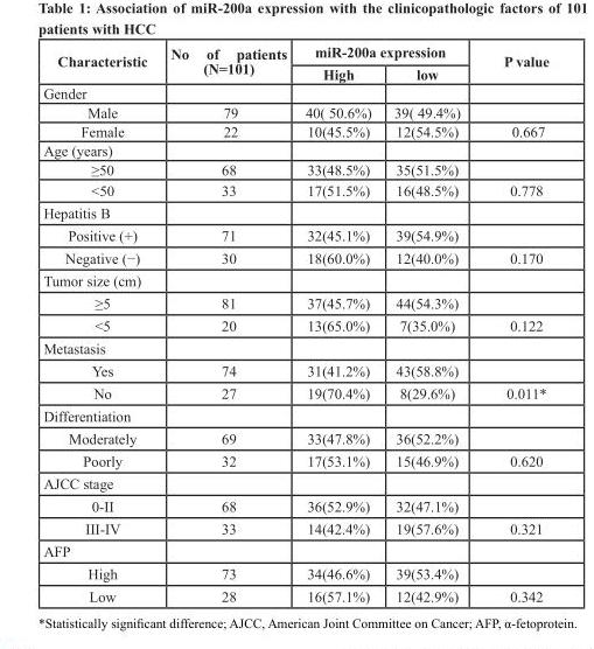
<table><thead><tr><td rowspan="2">Characteristic</td><td rowspan="2">No of patients (N=101)</td><td colspan="2">miR-200a expression</td><td rowspan="2">P value</td></tr><tr><td>High</td><td>low</td></tr></thead><tbody><tr><td colspan="5">Gender</td></tr><tr><td>Male</td><td>79</td><td>40( 50.6%)</td><td>39( 49.4%)</td><td></td></tr><tr><td>Female</td><td>22</td><td>10(45.5%)</td><td>12(54.5%)</td><td>0.667</td></tr><tr><td colspan="5">Age (years)</td></tr><tr><td>≥50</td><td>68</td><td>33(48.5%)</td><td>35(51.5%)</td><td></td></tr><tr><td>&lt;50</td><td>33</td><td>17(51.5%)</td><td>16(48.5%)</td><td>0.778</td></tr><tr><td colspan="5">Hepatitis B</td></tr><tr><td>Positive (+)</td><td>71</td><td>32(45.1%)</td><td>39(54.9%)</td><td></td></tr><tr><td>Negative (−)</td><td>30</td><td>18(60.0%)</td><td>12(40.0%)</td><td>0.170</td></tr><tr><td colspan="5">Tumor size (cm)</td></tr><tr><td>≥5</td><td>81</td><td>37(45.7%)</td><td>44(54.3%)</td><td></td></tr><tr><td>&lt;5</td><td>20</td><td>13(65.0%)</td><td>7(35.0%)</td><td>0.122</td></tr><tr><td colspan="5">Metastasis</td></tr><tr><td>Yes</td><td>74</td><td>31(41.2%)</td><td>43(58.8%)</td><td></td></tr><tr><td>No</td><td>27</td><td>19(70.4%)</td><td>8(29.6%)</td><td>0.011*</td></tr><tr><td colspan="5">Differentiation</td></tr><tr><td>Moderately</td><td>69</td><td>33(47.8%)</td><td>36(52.2%)</td><td></td></tr><tr><td>Poorly</td><td>32</td><td>17(53.1%)</td><td>15(46.9%)</td><td>0.620</td></tr><tr><td colspan="5">AJCC stage</td></tr><tr><td>0-II</td><td>68</td><td>36(52.9%)</td><td>32(47.1%)</td><td></td></tr><tr><td>III-IV</td><td>33</td><td>14(42.4%)</td><td>19(57.6%)</td><td>0.321</td></tr><tr><td colspan="5">AFP</td></tr><tr><td>High</td><td>73</td><td>34(46.6%)</td><td>39(53.4%)</td><td></td></tr><tr><td>Low</td><td>28</td><td>16(57.1%)</td><td>12(42.9%)</td><td>0.342</td></tr></tbody></table>